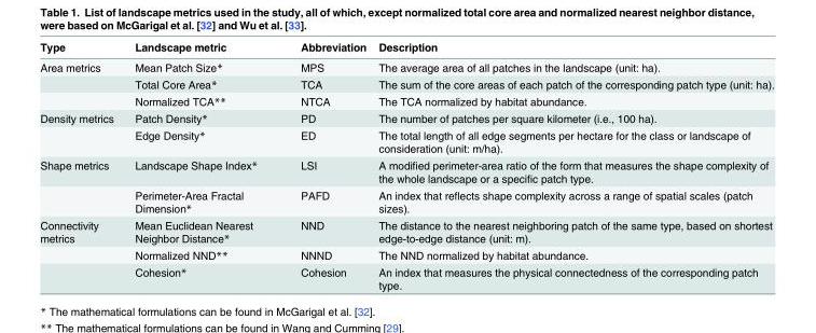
<table><thead><tr><td>Type</td><td>Landscape metric</td><td>Abbreviation</td><td>Description</td></tr></thead><tbody><tr><td rowspan="3">Area metrics</td><td>Mean Patch Size*</td><td>MPS</td><td>The average area of all patches in the landscape (unit: ha).</td></tr><tr><td>Total Core Area*</td><td>TCA</td><td>The sum of the core areas of each patch of the corresponding patch type (unit: ha).</td></tr><tr><td>Normalized TCA**</td><td>NTCA</td><td>The TCA normalized by habitat abundance.</td></tr><tr><td rowspan="2">Density metrics</td><td>Patch Density*</td><td>PD</td><td>The number of patches per square kilometer (i.e., 100 ha).</td></tr><tr><td>Edge Density*</td><td>ED</td><td>The total length of all edge segments per hectare for the class or landscape of consideration (unit: m/ha).</td></tr><tr><td rowspan="2">Shape metrics</td><td>Landscape Shape Index*</td><td>LSI</td><td>A modified perimeter-area ratio of the form that measures the shape complexity of the whole landscape or a specific patch type.</td></tr><tr><td>Perimeter-Area Fractal Dimension*</td><td>PAFD</td><td>An index that reflects shape complexity across a range of spatial scales (patch sizes).</td></tr><tr><td rowspan="3">Connectivity metrics</td><td>Mean Euclidean Nearest Neighbor Distance*</td><td>NND</td><td>The distance to the nearest neighboring patch of the same type, based on shortest edge-to-edge distance (unit: m).</td></tr><tr><td>Normalized NND**</td><td>NNND</td><td>The NND normalized by habitat abundance.</td></tr><tr><td>Cohesion*</td><td>Cohesion</td><td>An index that measures the physical connectedness of the corresponding patch type.</td></tr></tbody></table>